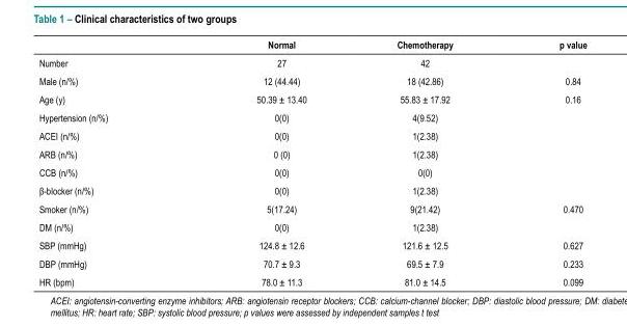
<table><thead><tr><td></td><td>Normal</td><td>Chemotherapy</td><td>p value</td></tr></thead><tbody><tr><td>Number</td><td>27</td><td>42</td><td></td></tr><tr><td>Male (n/%)</td><td>12 (44.44)</td><td>18 (42.86)</td><td>0.84</td></tr><tr><td>Age (y)</td><td>50.39 ± 13.40</td><td>55.83 ± 17.92</td><td>0.16</td></tr><tr><td>Hypertension (n/%)</td><td>0(0)</td><td>4(9.52)</td><td></td></tr><tr><td>ACEI (n/%)</td><td>0(0)</td><td>1(2.38)</td><td></td></tr><tr><td>ARB (n/%)</td><td>0 (0)</td><td>1(2.38)</td><td></td></tr><tr><td>CCB (n/%)</td><td>0(0)</td><td>0(0)</td><td></td></tr><tr><td>β-blocker (n/%)</td><td>0(0)</td><td>1(2.38)</td><td></td></tr><tr><td>Smoker (n/%)</td><td>5(17.24)</td><td>9(21.42)</td><td>0.470</td></tr><tr><td>DM (n/%)</td><td>0(0)</td><td>1(2.38)</td><td></td></tr><tr><td>SBP (mmHg)</td><td>124.8 ± 12.6</td><td>121.6 ± 12.5</td><td>0.627</td></tr><tr><td>DBP (mmHg)</td><td>70.7 ± 9.3</td><td>69.5 ± 7.9</td><td>0.233</td></tr><tr><td>HR (bpm)</td><td>78.0 ± 11.3</td><td>81.0 ± 14.5</td><td>0.099</td></tr></tbody></table>